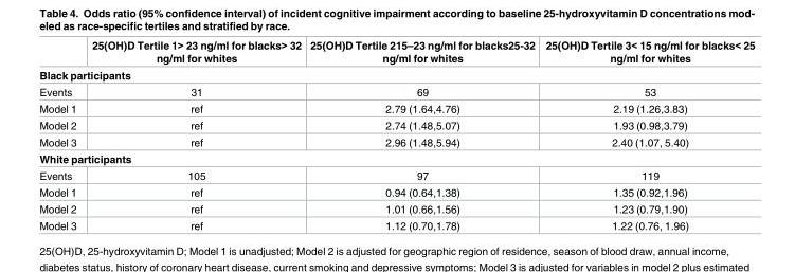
<table><thead><tr><td></td><td>25(OH)D Tertile 1&gt; 23 ng/ml for blacks&gt; 32 ng/ml for whites</td><td>25(OH)D Tertile 215–23 ng/ml for blacks25-32 ng/ml for whites</td><td>25(OH)D Tertile 3&lt; 15 ng/ml for blacks&lt; 25 ng/ml for whites</td></tr></thead><tbody><tr><td colspan="4">Black participants</td></tr><tr><td>Events</td><td>31</td><td>69</td><td>53</td></tr><tr><td>Model 1</td><td>ref</td><td>2.79 (1.64,4.76)</td><td>2.19 (1.26,3.83)</td></tr><tr><td>Model 2</td><td>ref</td><td>2.74 (1.48,5.07)</td><td>1.93 (0.98,3.79)</td></tr><tr><td>Model 3</td><td>ref</td><td>2.96 (1.48,5.94)</td><td>2.40 (1.07, 5.40)</td></tr><tr><td colspan="4">White participants</td></tr><tr><td>Events</td><td>105</td><td>97</td><td>119</td></tr><tr><td>Model 1</td><td>ref</td><td>0.94 (0.64,1.38)</td><td>1.35 (0.92,1.96)</td></tr><tr><td>Model 2</td><td>ref</td><td>1.01 (0.66,1.56)</td><td>1.23 (0.79,1.90)</td></tr><tr><td>Model 3</td><td>ref</td><td>1.12 (0.70,1.78)</td><td>1.22 (0.76, 1.96)</td></tr></tbody></table>